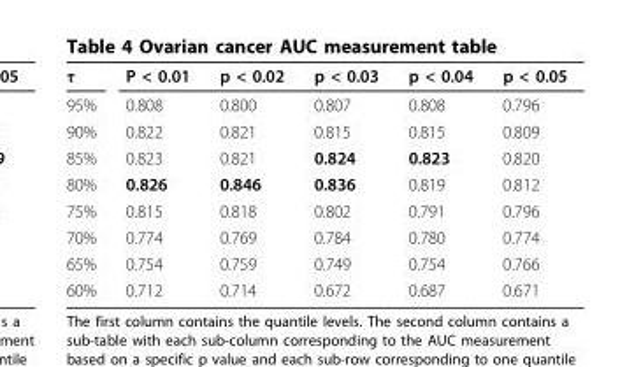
<table><tbody><tr><td>τ</td><td>P &lt; 0.01</td><td>p &lt; 0.02</td><td>p &lt; 0.03</td><td>p &lt; 0.04</td><td>p &lt; 0.05</td></tr><tr><td>95%</td><td>0.808</td><td>0.800</td><td>0.807</td><td>0.808</td><td>0.796</td></tr><tr><td>90%</td><td>0.822</td><td>0.821</td><td>0.815</td><td>0.815</td><td>0.809</td></tr><tr><td>85%</td><td>0.823</td><td>0.821</td><td>0.824</td><td>0.823</td><td>0.820</td></tr><tr><td>80%</td><td>0.826</td><td>0.846</td><td>0.836</td><td>0.819</td><td>0.812</td></tr><tr><td>75%</td><td>0.815</td><td>0.818</td><td>0.802</td><td>0.791</td><td>0.796</td></tr><tr><td>70%</td><td>0.774</td><td>0.769</td><td>0.784</td><td>0.780</td><td>0.774</td></tr><tr><td>65%</td><td>0.754</td><td>0.759</td><td>0.749</td><td>0.754</td><td>0.766</td></tr><tr><td>60%</td><td>0.712</td><td>0.714</td><td>0.672</td><td>0.687</td><td>0.671</td></tr></tbody></table>